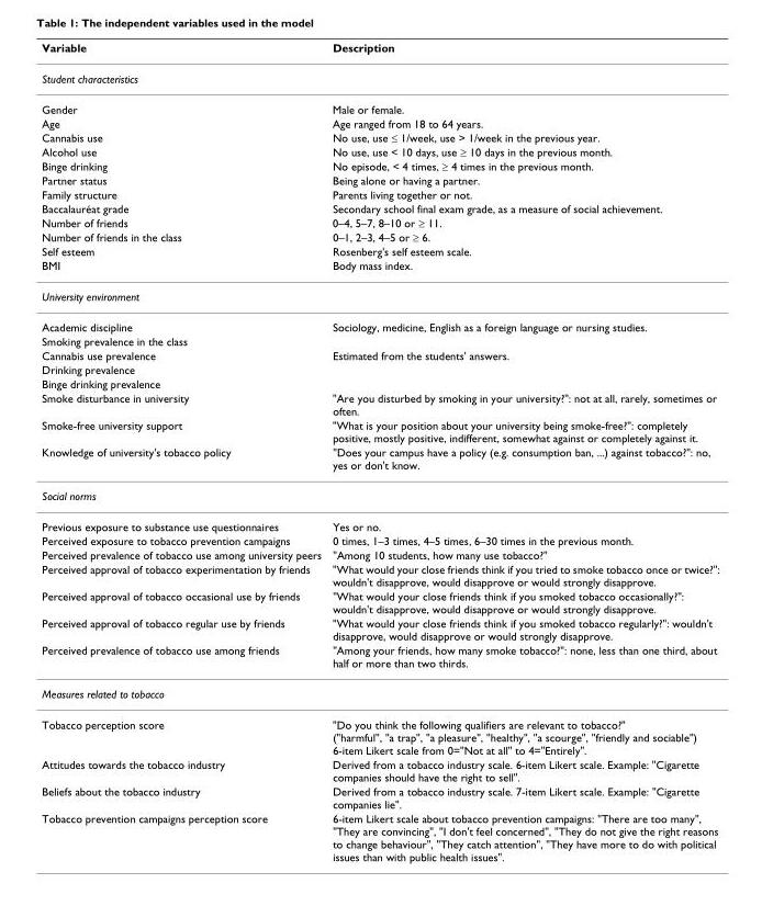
<table><thead><tr><td>Variable</td><td>Description</td></tr></thead><tbody><tr><td colspan="2">Student characteristics</td></tr><tr><td>Gender</td><td>Male or female.</td></tr><tr><td>Age</td><td>Age ranged from 18 to 64 years.</td></tr><tr><td>Cannabis use</td><td>No use, use ≤ 1/week, use &gt; 1/week in the previous year.</td></tr><tr><td>Alcohol use</td><td>No use, use &lt; 10 days, use ≥ 10 days in the previous month.</td></tr><tr><td>Binge drinking</td><td>No episode, &lt; 4 times, ≥ 4 times in the previous month.</td></tr><tr><td>Partner status</td><td>Being alone or having a partner.</td></tr><tr><td>Family structure</td><td>Parents living together or not.</td></tr><tr><td>Baccalauréat grade</td><td>Secondary school final exam grade, as a measure of social achievement.</td></tr><tr><td>Number of friends</td><td>0–4, 5–7, 8–10 or ≥ 11.</td></tr><tr><td>Number of friends in the class</td><td>0–1, 2–3, 4–5 or ≥ 6.</td></tr><tr><td>Self esteem</td><td>Rosenberg&#x27;s self esteem scale.</td></tr><tr><td>BMI</td><td>Body mass index.</td></tr><tr><td colspan="2">University environment</td></tr><tr><td>Academic discipline</td><td>Sociology, medicine, English as a foreign language or nursing studies.</td></tr><tr><td colspan="2">Smoking prevalence in the class</td></tr><tr><td>Cannabis use prevalence</td><td>Estimated from the students&#x27; answers.</td></tr><tr><td colspan="2">Drinking prevalence</td></tr><tr><td colspan="2">Binge drinking prevalence</td></tr><tr><td>Smoke disturbance in university</td><td>&quot;Are you disturbed by smoking in your university?&quot;: not at all, rarely, sometimes or often.</td></tr><tr><td>Smoke-free university support</td><td>&quot;What is your position about your university being smoke-free?&quot;: completely positive, mostly positive, indifferent, somewhat against or completely against it.</td></tr><tr><td>Knowledge of university&#x27;s tobacco policy</td><td>&quot;Does your campus have a policy (e.g. consumption ban, ...) against tobacco?&quot;: no, yes or don&#x27;t know.</td></tr><tr><td colspan="2">Social norms</td></tr><tr><td>Previous exposure to substance use questionnaires</td><td>Yes or no.</td></tr><tr><td>Perceived exposure to tobacco prevention campaigns</td><td>0 times, 1–3 times, 4–5 times, 6–30 times in the previous month.</td></tr><tr><td>Perceived prevalence of tobacco use among university peers</td><td>&quot;Among 10 students, how many use tobacco?&quot;</td></tr><tr><td>Perceived approval of tobacco experimentation by friends</td><td>&quot;What would your close friends think if you tried to smoke tobacco once or twice?&quot;: wouldn&#x27;t disapprove, would disapprove or would strongly disapprove.</td></tr><tr><td>Perceived approval of tobacco occasional use by friends</td><td>&quot;What would your close friends think if you smoked tobacco occasionally?&quot;: wouldn&#x27;t disapprove, would disapprove or would strongly disapprove.</td></tr><tr><td>Perceived approval of tobacco regular use by friends</td><td>&quot;What would your close friends think if you smoked tobacco regularly?&quot;: wouldn&#x27;t disapprove, would disapprove or would strongly disapprove.</td></tr><tr><td>Perceived prevalence of tobacco use among friends</td><td>&quot;Among your friends, how many smoke tobacco?&quot;: none, less than one third, about half or more than two thirds.</td></tr><tr><td colspan="2">Measures related to tobacco</td></tr><tr><td>Tobacco perception score</td><td>&quot;Do you think the following qualifiers are relevant to tobacco?&quot; (&quot;harmful&quot;, &quot;a trap&quot;, &quot;a pleasure&quot;, &quot;healthy&quot;, &quot;a scourge&quot;, &quot;friendly and sociable&quot;) 6-item Likert scale from 0=&quot;Not at all&quot; to 4=&quot;Entirely&quot;.</td></tr><tr><td>Attitudes towards the tobacco industry</td><td>Derived from a tobacco industry scale. 6-item Likert scale. Example: &quot;Cigarette companies should have the right to sell&quot;.</td></tr><tr><td>Beliefs about the tobacco industry</td><td>Derived from a tobacco industry scale. 7-item Likert scale. Example: &quot;Cigarette companies lie&quot;.</td></tr><tr><td>Tobacco prevention campaigns perception score</td><td>6-item Likert scale about tobacco prevention campaigns: &quot;There are too many&quot;, &quot;They are convincing&quot;, &quot;I don&#x27;t feel concerned&quot;, &quot;They do not give the right reasons to change behaviour&quot;, &quot;They catch attention&quot;, &quot;They have more to do with political issues than with public health issues&quot;.</td></tr></tbody></table>